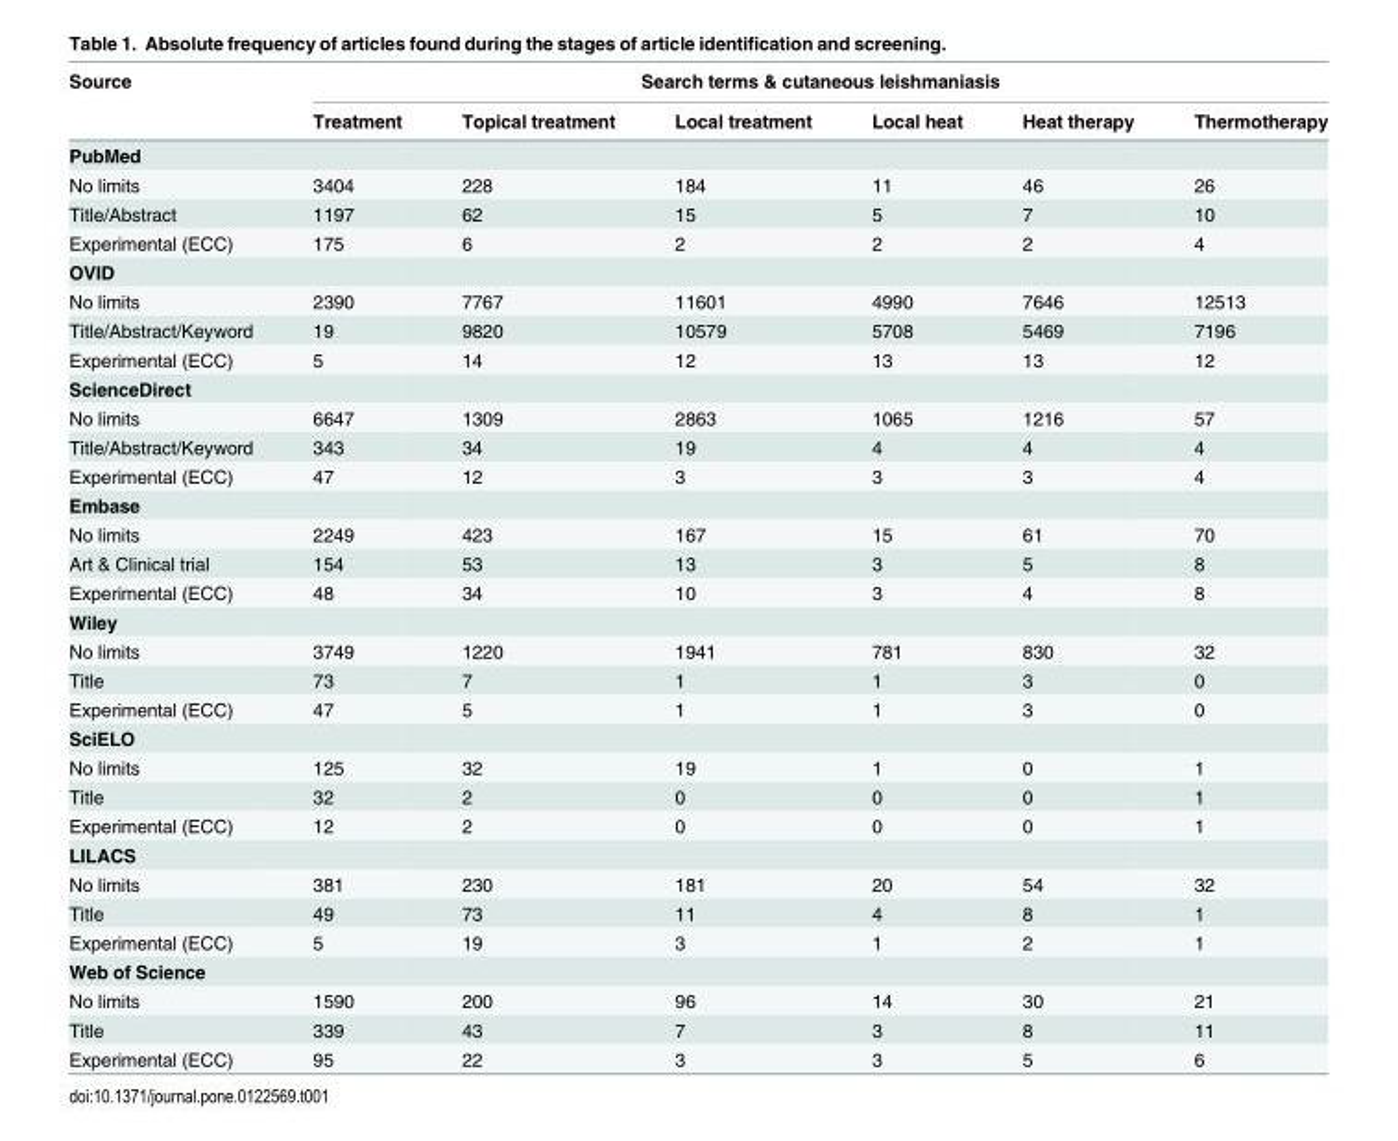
<table><thead><tr><td rowspan="2">Source</td><td colspan="6">Search terms &amp; cutaneous leishmaniasis</td></tr><tr><td>Treatment</td><td>Topical treatment</td><td>Local treatment</td><td>Local heat</td><td>Heat therapy</td><td>Thermotherapy</td></tr></thead><tbody><tr><td colspan="7">PubMed</td></tr><tr><td>No limits</td><td>3404</td><td>228</td><td>184</td><td>11</td><td>46</td><td>26</td></tr><tr><td>Title/Abstract</td><td>1197</td><td>62</td><td>15</td><td>5</td><td>7</td><td>10</td></tr><tr><td>Experimental (ECC)</td><td>175</td><td>6</td><td>2</td><td>2</td><td>2</td><td>4</td></tr><tr><td colspan="7">OVID</td></tr><tr><td>No limits</td><td>2390</td><td>7767</td><td>11601</td><td>4990</td><td>7646</td><td>12513</td></tr><tr><td>Title/Abstract/Keyword</td><td>19</td><td>9820</td><td>10579</td><td>5708</td><td>5469</td><td>7196</td></tr><tr><td>Experimental (ECC)</td><td>5</td><td>14</td><td>12</td><td>13</td><td>13</td><td>12</td></tr><tr><td colspan="7">ScienceDirect</td></tr><tr><td>No limits</td><td>6647</td><td>1309</td><td>2863</td><td>1065</td><td>1216</td><td>57</td></tr><tr><td>Title/Abstract/Keyword</td><td>343</td><td>34</td><td>19</td><td>4</td><td>4</td><td>4</td></tr><tr><td>Experimental (ECC)</td><td>47</td><td>12</td><td>3</td><td>3</td><td>3</td><td>4</td></tr><tr><td colspan="7">Embase</td></tr><tr><td>No limits</td><td>2249</td><td>423</td><td>167</td><td>15</td><td>61</td><td>70</td></tr><tr><td>Art &amp; Clinical trial</td><td>154</td><td>53</td><td>13</td><td>3</td><td>5</td><td>8</td></tr><tr><td>Experimental (ECC)</td><td>48</td><td>34</td><td>10</td><td>3</td><td>4</td><td>8</td></tr><tr><td colspan="7">Wiley</td></tr><tr><td>No limits</td><td>3749</td><td>1220</td><td>1941</td><td>781</td><td>830</td><td>32</td></tr><tr><td>Title</td><td>73</td><td>7</td><td>1</td><td>1</td><td>3</td><td>0</td></tr><tr><td>Experimental (ECC)</td><td>47</td><td>5</td><td>1</td><td>1</td><td>3</td><td>0</td></tr><tr><td colspan="7">SciELO</td></tr><tr><td>No limits</td><td>125</td><td>32</td><td>19</td><td>1</td><td>0</td><td>1</td></tr><tr><td>Title</td><td>32</td><td>2</td><td>0</td><td>0</td><td>0</td><td>1</td></tr><tr><td>Experimental (ECC)</td><td>12</td><td>2</td><td>0</td><td>0</td><td>0</td><td>1</td></tr><tr><td colspan="7">LILACS</td></tr><tr><td>No limits</td><td>381</td><td>230</td><td>181</td><td>20</td><td>54</td><td>32</td></tr><tr><td>Title</td><td>49</td><td>73</td><td>11</td><td>4</td><td>8</td><td>1</td></tr><tr><td>Experimental (ECC)</td><td>5</td><td>19</td><td>3</td><td>1</td><td>2</td><td>1</td></tr><tr><td colspan="7">Web of Science</td></tr><tr><td>No limits</td><td>1590</td><td>200</td><td>96</td><td>14</td><td>30</td><td>21</td></tr><tr><td>Title</td><td>339</td><td>43</td><td>7</td><td>3</td><td>8</td><td>11</td></tr><tr><td>Experimental (ECC)</td><td>95</td><td>22</td><td>3</td><td>3</td><td>5</td><td>6</td></tr></tbody></table>